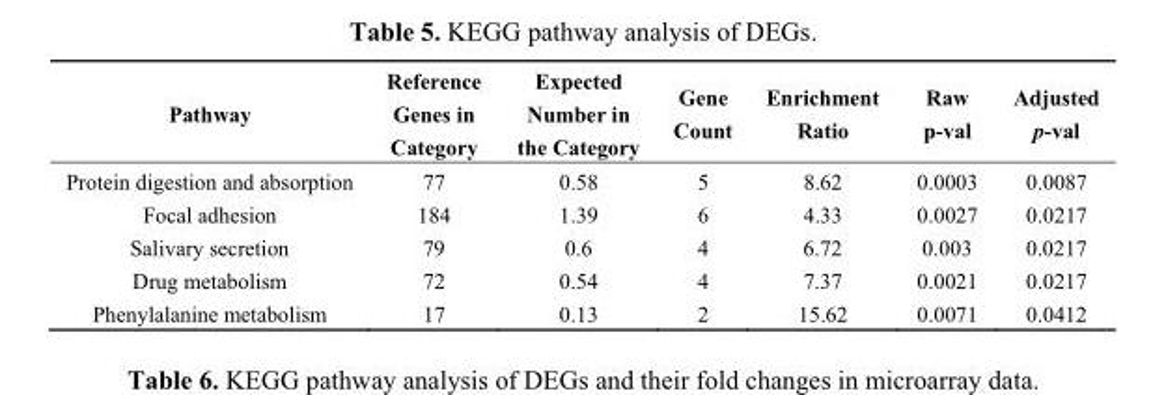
<table><thead><tr><td>Pathway</td><td>Reference Genes in Category</td><td>Expected Number in the Category</td><td>Gene Count</td><td>Enrichment Ratio</td><td>Raw p-val</td><td>Adjusted p-val</td></tr></thead><tbody><tr><td>Protein digestion and absorption</td><td>77</td><td>0.58</td><td>5</td><td>8.62</td><td>0.0003</td><td>0.0087</td></tr><tr><td>Focal adhesion</td><td>184</td><td>1.39</td><td>6</td><td>4.33</td><td>0.0027</td><td>0.0217</td></tr><tr><td>Salivary secretion</td><td>79</td><td>0.6</td><td>4</td><td>6.72</td><td>0.003</td><td>0.0217</td></tr><tr><td>Drug metabolism</td><td>72</td><td>0.54</td><td>4</td><td>7.37</td><td>0.0021</td><td>0.0217</td></tr><tr><td>Phenylalanine metabolism</td><td>17</td><td>0.13</td><td>2</td><td>15.62</td><td>0.0071</td><td>0.0412</td></tr></tbody></table>